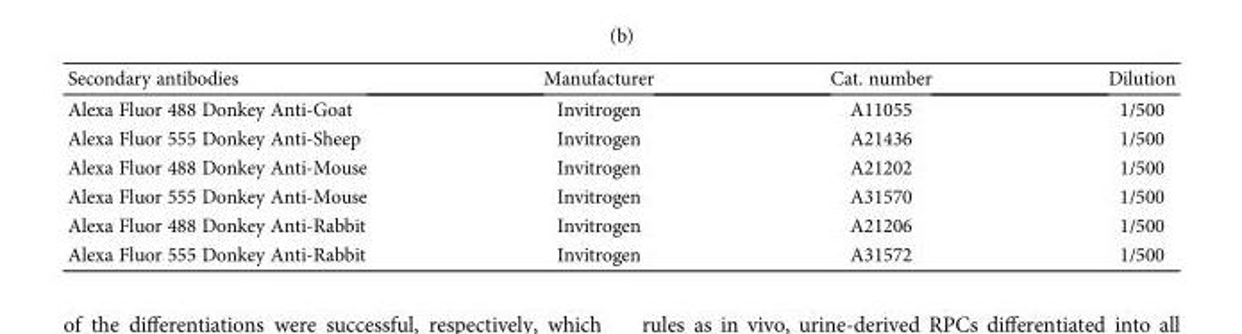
<table><thead><tr><td>Secondary antibodies</td><td>Manufacturer</td><td>Cat. number</td><td>Dilution</td></tr></thead><tbody><tr><td>Alexa Fluor 488 Donkey Anti-Goat</td><td>Invitrogen</td><td>A11055</td><td>1/500</td></tr><tr><td>Alexa Fluor 555 Donkey Anti-Sheep</td><td>Invitrogen</td><td>A21436</td><td>1/500</td></tr><tr><td>Alexa Fluor 488 Donkey Anti-Mouse</td><td>Invitrogen</td><td>A21202</td><td>1/500</td></tr><tr><td>Alexa Fluor 555 Donkey Anti-Mouse</td><td>Invitrogen</td><td>A31570</td><td>1/500</td></tr><tr><td>Alexa Fluor 488 Donkey Anti-Rabbit</td><td>Invitrogen</td><td>A21206</td><td>1/500</td></tr><tr><td>Alexa Fluor 555 Donkey Anti-Rabbit</td><td>Invitrogen</td><td>A31572</td><td>1/500</td></tr></tbody></table>